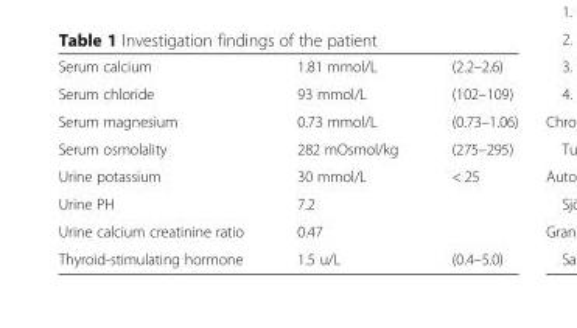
<table><tbody><tr><td>Serum calcium</td><td>1.81 mmol/L</td><td>(2.2–2.6)</td></tr><tr><td>Serum chloride</td><td>93 mmol/L</td><td>(102–109)</td></tr><tr><td>Serum magnesium</td><td>0.73 mmol/L</td><td>(0.73–1.06)</td></tr><tr><td>Serum osmolality</td><td>282 mOsmol/kg</td><td>(275–295)</td></tr><tr><td>Urine potassium</td><td>30 mmol/L</td><td>&lt; 25</td></tr><tr><td>Urine PH</td><td>7.2</td><td></td></tr><tr><td>Urine calcium creatinine ratio</td><td>0.47</td><td></td></tr><tr><td>Thyroid-stimulating hormone</td><td>1.5 u/L</td><td>(0.4–5.0)</td></tr></tbody></table>